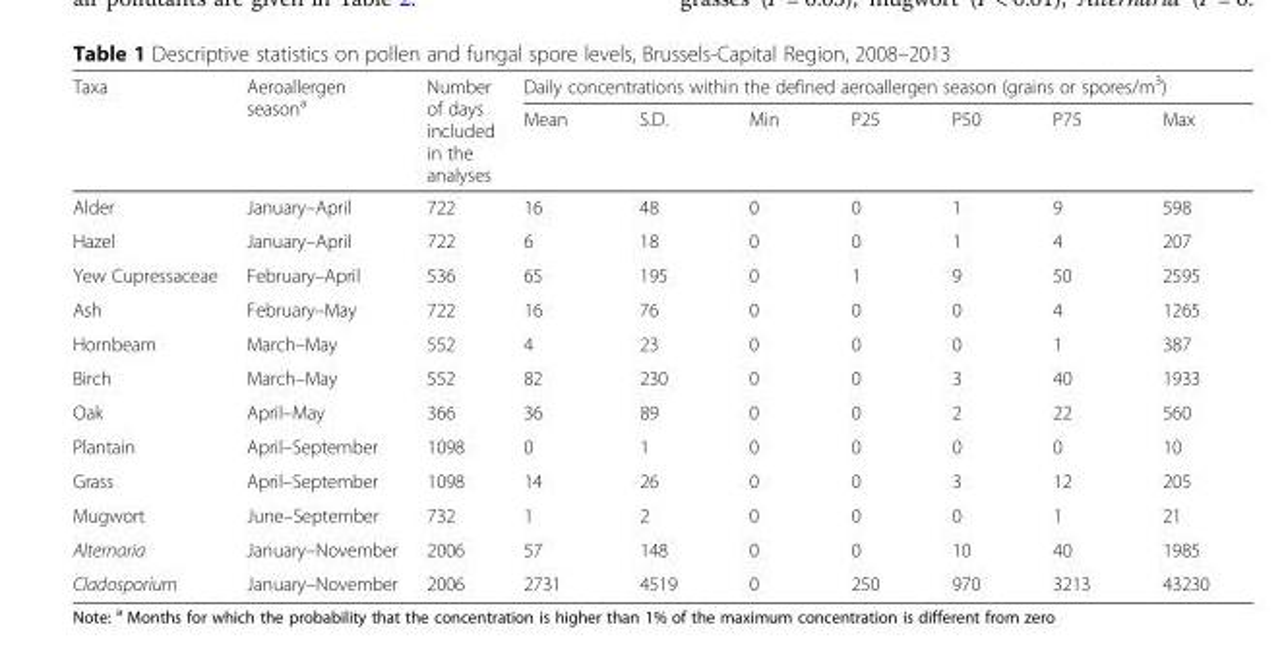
<table><thead><tr><td rowspan="2">Taxa</td><td rowspan="2">Aeroallergen season<sup>a</sup></td><td rowspan="2">Number of days included in the analyses</td><td colspan="7">Daily concentrations within the defined aeroallergen season (grains or spores/m<sup>3</sup>)</td></tr><tr><td>Mean</td><td>S.D.</td><td>Min</td><td>P25</td><td>P50</td><td>P75</td><td>Max</td></tr></thead><tbody><tr><td>Alder</td><td>January–April</td><td>722</td><td>16</td><td>48</td><td>0</td><td>0</td><td>1</td><td>9</td><td>598</td></tr><tr><td>Hazel</td><td>January–April</td><td>722</td><td>6</td><td>18</td><td>0</td><td>0</td><td>1</td><td>4</td><td>207</td></tr><tr><td>Yew Cupressaceae</td><td>February–April</td><td>536</td><td>65</td><td>195</td><td>0</td><td>1</td><td>9</td><td>50</td><td>2595</td></tr><tr><td>Ash</td><td>February–May</td><td>722</td><td>16</td><td>76</td><td>0</td><td>0</td><td>0</td><td>4</td><td>1265</td></tr><tr><td>Hornbeam</td><td>March–May</td><td>552</td><td>4</td><td>23</td><td>0</td><td>0</td><td>0</td><td>1</td><td>387</td></tr><tr><td>Birch</td><td>March–May</td><td>552</td><td>82</td><td>230</td><td>0</td><td>0</td><td>3</td><td>40</td><td>1933</td></tr><tr><td>Oak</td><td>April–May</td><td>366</td><td>36</td><td>89</td><td>0</td><td>0</td><td>2</td><td>22</td><td>560</td></tr><tr><td>Plantain</td><td>April–September</td><td>1098</td><td>0</td><td>1</td><td>0</td><td>0</td><td>0</td><td>0</td><td>10</td></tr><tr><td>Grass</td><td>April–September</td><td>1098</td><td>14</td><td>26</td><td>0</td><td>0</td><td>3</td><td>12</td><td>205</td></tr><tr><td>Mugwort</td><td>June–September</td><td>732</td><td>1</td><td>2</td><td>0</td><td>0</td><td>0</td><td>1</td><td>21</td></tr><tr><td>Alternaria</td><td>January–November</td><td>2006</td><td>57</td><td>148</td><td>0</td><td>0</td><td>10</td><td>40</td><td>1985</td></tr><tr><td>Cladosporium</td><td>January–November</td><td>2006</td><td>2731</td><td>4519</td><td>0</td><td>250</td><td>970</td><td>3213</td><td>43230</td></tr></tbody></table>